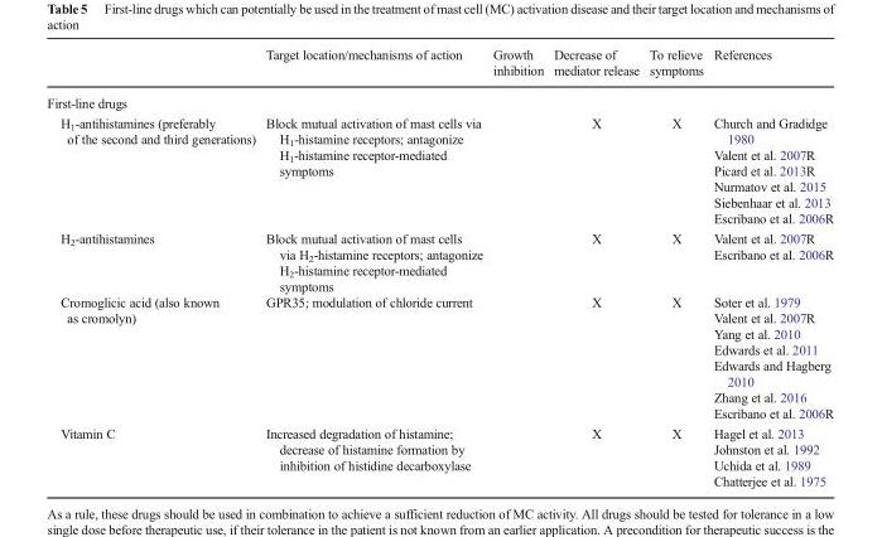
<table><thead><tr><td></td><td>Target location/mechanisms of action</td><td>Growth inhibition</td><td>Decrease of mediator release</td><td>To relieve symptoms</td><td>References</td></tr></thead><tbody><tr><td colspan="6">First-line drugs</td></tr><tr><td>H<sub>1</sub>-antihistamines (preferably of the second and third generations)</td><td>Block mutual activation of mast cells via H<sub>1</sub>-histamine receptors; antagonize H<sub>1</sub>-histamine receptor-mediated symptoms</td><td></td><td>X</td><td>X</td><td>Church and Gradidge 1980 Valent et al. 2007R Picard et al. 2013R Nurmatov et al. 2015 Siebenhaar et al. 2013 Escribano et al. 2006R</td></tr><tr><td>H<sub>2</sub>-antihistamines</td><td>Block mutual activation of mast cells via H<sub>2</sub>-histamine receptors; antagonize H<sub>2</sub>-histamine receptor-mediated symptoms</td><td></td><td>X</td><td>X</td><td>Valent et al. 2007R Escribano et al. 2006R</td></tr><tr><td>Cromoglicic acid (also known as cromolyn)</td><td>GPR35; modulation of chloride current</td><td></td><td>X</td><td>X</td><td>Soter et al. 1979 Valent et al. 2007R Yang et al. 2010 Edwards et al. 2011 Edwards and Hagberg 2010 Zhang et al. 2016 Escribano et al. 2006R</td></tr><tr><td>Vitamin C</td><td>Increased degradation of histamine; decrease of histamine formation by inhibition of histidine decarboxylase</td><td></td><td>X</td><td>X</td><td>Hagel et al. 2013 Johnston et al. 1992 Uchida et al. 1989 Chatterjee et al. 1975</td></tr></tbody></table>